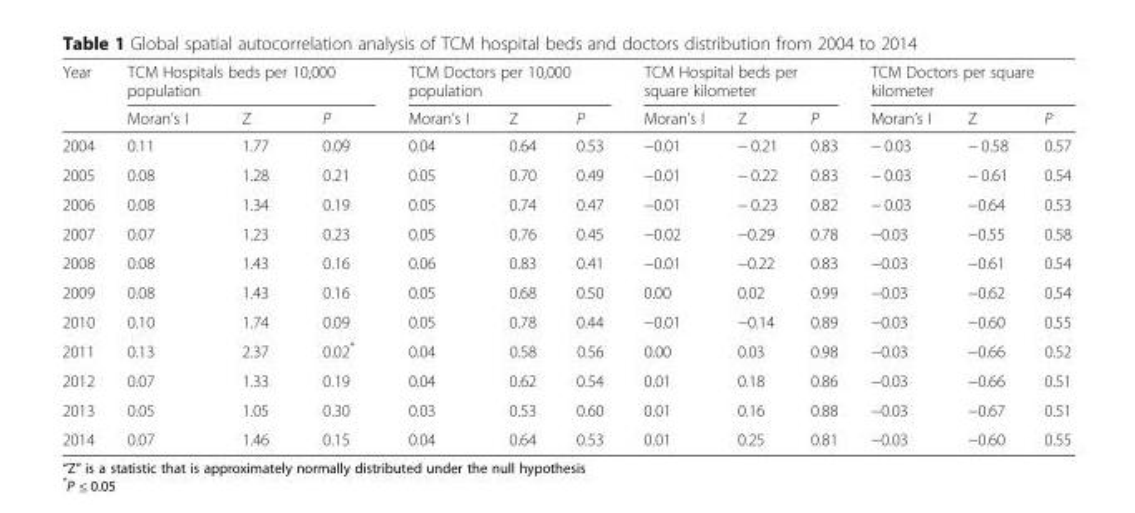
<table><thead><tr><td rowspan="2">Year</td><td colspan="3">TCM Hospitals beds per 10,000 population</td><td colspan="3">TCM Doctors per 10,000 population</td><td colspan="3">TCM Hospital beds per square kilometer</td><td colspan="3">TCM Doctors per square kilometer</td></tr><tr><td>Moran’s I</td><td>Z</td><td>P</td><td>Moran’s I</td><td>Z</td><td>P</td><td>Moran’s I</td><td>Z</td><td>P</td><td>Moran’s I</td><td>Z</td><td>P</td></tr></thead><tbody><tr><td>2004</td><td>0.11</td><td>1.77</td><td>0.09</td><td>0.04</td><td>0.64</td><td>0.53</td><td>−0.01</td><td>− 0.21</td><td>0.83</td><td>− 0.03</td><td>− 0.58</td><td>0.57</td></tr><tr><td>2005</td><td>0.08</td><td>1.28</td><td>0.21</td><td>0.05</td><td>0.70</td><td>0.49</td><td>−0.01</td><td>− 0.22</td><td>0.83</td><td>− 0.03</td><td>− 0.61</td><td>0.54</td></tr><tr><td>2006</td><td>0.08</td><td>1.34</td><td>0.19</td><td>0.05</td><td>0.74</td><td>0.47</td><td>−0.01</td><td>− 0.23</td><td>0.82</td><td>− 0.03</td><td>−0.64</td><td>0.53</td></tr><tr><td>2007</td><td>0.07</td><td>1.23</td><td>0.23</td><td>0.05</td><td>0.76</td><td>0.45</td><td>−0.02</td><td>−0.29</td><td>0.78</td><td>−0.03</td><td>−0.55</td><td>0.58</td></tr><tr><td>2008</td><td>0.08</td><td>1.43</td><td>0.16</td><td>0.06</td><td>0.83</td><td>0.41</td><td>−0.01</td><td>−0.22</td><td>0.83</td><td>−0.03</td><td>−0.61</td><td>0.54</td></tr><tr><td>2009</td><td>0.08</td><td>1.43</td><td>0.16</td><td>0.05</td><td>0.68</td><td>0.50</td><td>0.00</td><td>0.02</td><td>0.99</td><td>−0.03</td><td>−0.62</td><td>0.54</td></tr><tr><td>2010</td><td>0.10</td><td>1.74</td><td>0.09</td><td>0.05</td><td>0.78</td><td>0.44</td><td>−0.01</td><td>−0.14</td><td>0.89</td><td>−0.03</td><td>−0.60</td><td>0.55</td></tr><tr><td>2011</td><td>0.13</td><td>2.37</td><td>0.02*</td><td>0.04</td><td>0.58</td><td>0.56</td><td>0.00</td><td>0.03</td><td>0.98</td><td>−0.03</td><td>−0.66</td><td>0.52</td></tr><tr><td>2012</td><td>0.07</td><td>1.33</td><td>0.19</td><td>0.04</td><td>0.62</td><td>0.54</td><td>0.01</td><td>0.18</td><td>0.86</td><td>−0.03</td><td>−0.66</td><td>0.51</td></tr><tr><td>2013</td><td>0.05</td><td>1.05</td><td>0.30</td><td>0.03</td><td>0.53</td><td>0.60</td><td>0.01</td><td>0.16</td><td>0.88</td><td>−0.03</td><td>−0.67</td><td>0.51</td></tr><tr><td>2014</td><td>0.07</td><td>1.46</td><td>0.15</td><td>0.04</td><td>0.64</td><td>0.53</td><td>0.01</td><td>0.25</td><td>0.81</td><td>−0.03</td><td>−0.60</td><td>0.55</td></tr></tbody></table>